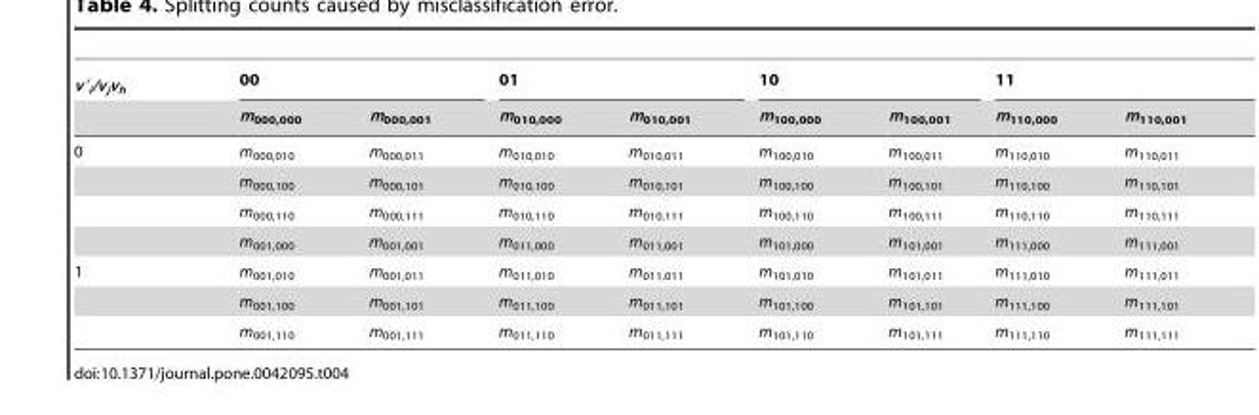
<table><thead><tr><td rowspan="2">v′<sub>i</sub>/v<sub>j</sub>v<sub>h</sub></td><td colspan="2">00</td><td colspan="2">01</td><td colspan="2">10</td><td colspan="2">11</td></tr><tr><td>m<sub>000,000</sub></td><td>m<sub>000,001</sub></td><td>m<sub>010,000</sub></td><td>m<sub>010,001</sub></td><td>m<sub>100,000</sub></td><td>m<sub>100,001</sub></td><td>m<sub>110,000</sub></td><td>m<sub>110,001</sub></td></tr></thead><tbody><tr><td rowspan="4">0</td><td>m<sub>000,010</sub></td><td>m<sub>000,011</sub></td><td>m<sub>010,010</sub></td><td>m<sub>010,011</sub></td><td>m<sub>100,010</sub></td><td>m<sub>100,011</sub></td><td>m<sub>110,010</sub></td><td>m<sub>110,011</sub></td></tr><tr><td>m<sub>000,100</sub></td><td>m<sub>000,101</sub></td><td>m<sub>010,100</sub></td><td>m<sub>010,101</sub></td><td>m<sub>100,100</sub></td><td>m<sub>100,101</sub></td><td>m<sub>110,100</sub></td><td>m<sub>110,101</sub></td></tr><tr><td>m<sub>000,110</sub></td><td>m<sub>000,111</sub></td><td>m<sub>010,110</sub></td><td>m<sub>010,111</sub></td><td>m<sub>100,110</sub></td><td>m<sub>100,111</sub></td><td>m<sub>110,110</sub></td><td>m<sub>110,111</sub></td></tr><tr><td>m<sub>001,000</sub></td><td>m<sub>001,001</sub></td><td>m<sub>011,000</sub></td><td>m<sub>011,001</sub></td><td>m<sub>101,000</sub></td><td>m<sub>101,001</sub></td><td>m<sub>111,000</sub></td><td>m<sub>111,001</sub></td></tr><tr><td rowspan="3">1</td><td>m<sub>001,010</sub></td><td>m<sub>001,011</sub></td><td>m<sub>011,010</sub></td><td>m<sub>011,011</sub></td><td>m<sub>101,010</sub></td><td>m<sub>101,011</sub></td><td>m<sub>111,010</sub></td><td>m<sub>111,011</sub></td></tr><tr><td>m<sub>001,100</sub></td><td>m<sub>001,101</sub></td><td>m<sub>011,100</sub></td><td>m<sub>011,101</sub></td><td>m<sub>101,100</sub></td><td>m<sub>101,101</sub></td><td>m<sub>111,100</sub></td><td>m<sub>111,101</sub></td></tr><tr><td>m<sub>001,110</sub></td><td>m<sub>001,111</sub></td><td>m<sub>011,110</sub></td><td>m<sub>011,111</sub></td><td>m<sub>101,110</sub></td><td>m<sub>101,111</sub></td><td>m<sub>111,110</sub></td><td>m<sub>111,111</sub></td></tr></tbody></table>